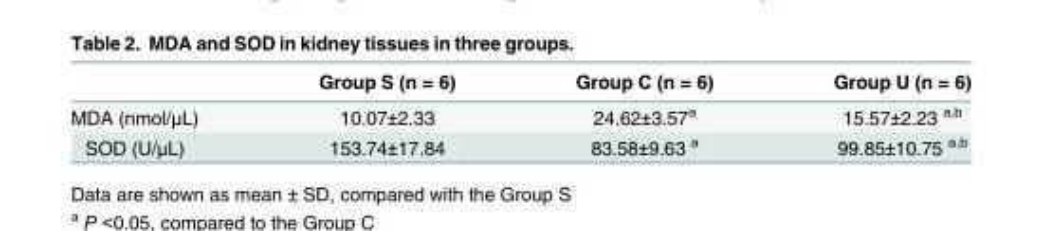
<table><thead><tr><td></td><td>Group S (n = 6)</td><td>Group C (n = 6)</td><td>Group U (n = 6)</td></tr></thead><tbody><tr><td>MDA (nmol/μL)</td><td>10.07±2.33</td><td>24.62±3.57<sup>a</sup></td><td>15.57±2.23 <sup>a,b</sup></td></tr><tr><td>SOD (U/μL)</td><td>153.74±17.84</td><td>83.58±9.63 <sup>a</sup></td><td>99.85±10.75 <sup>a,b</sup></td></tr></tbody></table>